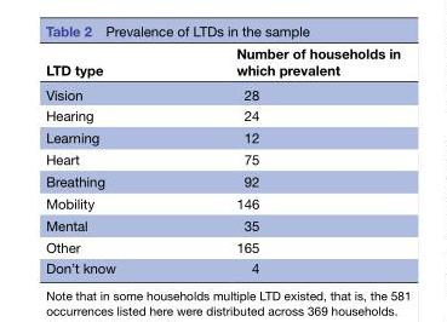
<table><thead><tr><td>LTD type</td><td>Number of households in which prevalent</td></tr></thead><tbody><tr><td>Vision</td><td>28</td></tr><tr><td>Hearing</td><td>24</td></tr><tr><td>Learning</td><td>12</td></tr><tr><td>Heart</td><td>75</td></tr><tr><td>Breathing</td><td>92</td></tr><tr><td>Mobility</td><td>146</td></tr><tr><td>Mental</td><td>35</td></tr><tr><td>Other</td><td>165</td></tr><tr><td>Don’t know</td><td>4</td></tr></tbody></table>